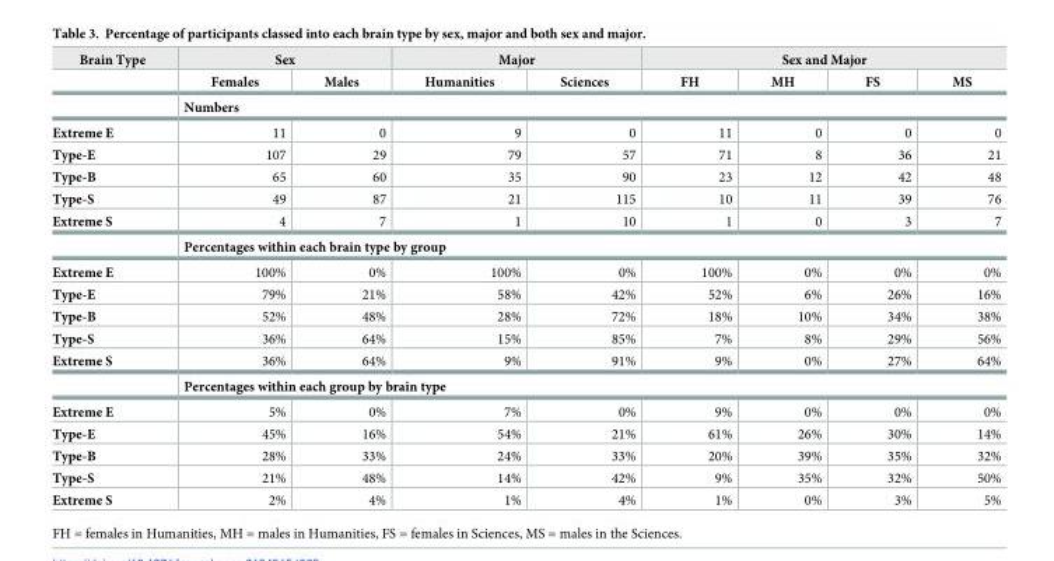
<table><thead><tr><td rowspan="2">Brain Type</td><td colspan="2">Sex</td><td colspan="2">Major</td><td colspan="4">Sex and Major</td></tr><tr><td>Females</td><td>Males</td><td>Humanities</td><td>Sciences</td><td>FH</td><td>MH</td><td>FS</td><td>MS</td></tr></thead><tbody><tr><td></td><td colspan="8">Numbers</td></tr><tr><td>Extreme E</td><td>11</td><td>0</td><td>9</td><td>0</td><td>11</td><td>0</td><td>0</td><td>0</td></tr><tr><td>Type-E</td><td>107</td><td>29</td><td>79</td><td>57</td><td>71</td><td>8</td><td>36</td><td>21</td></tr><tr><td>Type-B</td><td>65</td><td>60</td><td>35</td><td>90</td><td>23</td><td>12</td><td>42</td><td>48</td></tr><tr><td>Type-S</td><td>49</td><td>87</td><td>21</td><td>115</td><td>10</td><td>11</td><td>39</td><td>76</td></tr><tr><td rowspan="2">Extreme S</td><td>4</td><td>7</td><td>1</td><td>10</td><td>1</td><td>0</td><td>3</td><td>7</td></tr><tr><td colspan="8">Percentages within each brain type by group</td></tr><tr><td>Extreme E</td><td>100%</td><td>0%</td><td>100%</td><td>0%</td><td>100%</td><td>0%</td><td>0%</td><td>0%</td></tr><tr><td>Type-E</td><td>79%</td><td>21%</td><td>58%</td><td>42%</td><td>52%</td><td>6%</td><td>26%</td><td>16%</td></tr><tr><td>Type-B</td><td>52%</td><td>48%</td><td>28%</td><td>72%</td><td>18%</td><td>10%</td><td>34%</td><td>38%</td></tr><tr><td>Type-S</td><td>36%</td><td>64%</td><td>15%</td><td>85%</td><td>7%</td><td>8%</td><td>29%</td><td>56%</td></tr><tr><td rowspan="2">Extreme S</td><td>36%</td><td>64%</td><td>9%</td><td>91%</td><td>9%</td><td>0%</td><td>27%</td><td>64%</td></tr><tr><td colspan="8">Percentages within each group by brain type</td></tr><tr><td>Extreme E</td><td>5%</td><td>0%</td><td>7%</td><td>0%</td><td>9%</td><td>0%</td><td>0%</td><td>0%</td></tr><tr><td>Type-E</td><td>45%</td><td>16%</td><td>54%</td><td>21%</td><td>61%</td><td>26%</td><td>30%</td><td>14%</td></tr><tr><td>Type-B</td><td>28%</td><td>33%</td><td>24%</td><td>33%</td><td>20%</td><td>39%</td><td>35%</td><td>32%</td></tr><tr><td>Type-S</td><td>21%</td><td>48%</td><td>14%</td><td>42%</td><td>9%</td><td>35%</td><td>32%</td><td>50%</td></tr><tr><td>Extreme S</td><td>2%</td><td>4%</td><td>1%</td><td>4%</td><td>1%</td><td>0%</td><td>3%</td><td>5%</td></tr></tbody></table>